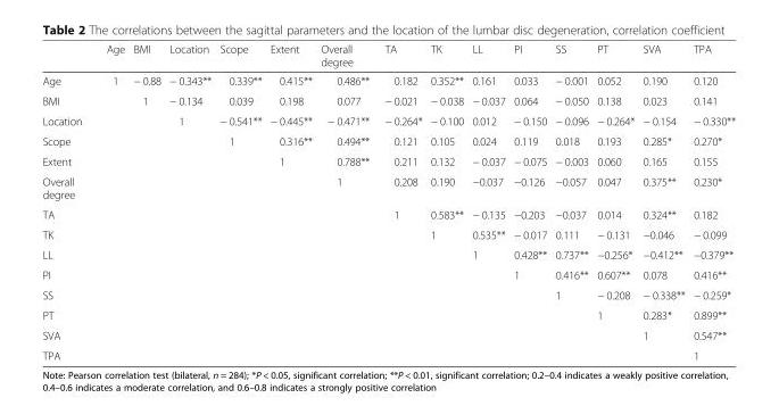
<table><thead><tr><td></td><td>Age</td><td>BMI</td><td>Location</td><td>Scope</td><td>Extent</td><td>Overall degree</td><td>TA</td><td>TK</td><td>LL</td><td>PI</td><td>SS</td><td>PT</td><td>SVA</td><td>TPA</td></tr></thead><tbody><tr><td>Age</td><td>1</td><td>− 0.88</td><td>− 0.343**</td><td>0.339**</td><td>0.415**</td><td>0.486**</td><td>0.182</td><td>0.352**</td><td>0.161</td><td>0.033</td><td>− 0.001</td><td>0.052</td><td>0.190</td><td>0.120</td></tr><tr><td>BMI</td><td></td><td>1</td><td>− 0.134</td><td>0.039</td><td>0.198</td><td>0.077</td><td>− 0.021</td><td>− 0.038</td><td>− 0.037</td><td>0.064</td><td>− 0.050</td><td>0.138</td><td>0.023</td><td>0.141</td></tr><tr><td>Location</td><td></td><td></td><td>1</td><td>− 0.541**</td><td>− 0.445**</td><td>− 0.471**</td><td>− 0.264*</td><td>− 0.100</td><td>0.012</td><td>− 0.150</td><td>− 0.096</td><td>− 0.264*</td><td>− 0.154</td><td>− 0.330**</td></tr><tr><td>Scope</td><td></td><td></td><td></td><td>1</td><td>0.316**</td><td>0.494**</td><td>0.121</td><td>0.105</td><td>0.024</td><td>0.119</td><td>0.018</td><td>0.193</td><td>0.285*</td><td>0.270*</td></tr><tr><td>Extent</td><td></td><td></td><td></td><td></td><td>1</td><td>0.788**</td><td>0.211</td><td>0.132</td><td>− 0.037</td><td>− 0.075</td><td>− 0.003</td><td>0.060</td><td>0.165</td><td>0.155</td></tr><tr><td>Overall degree</td><td></td><td></td><td></td><td></td><td></td><td>1</td><td>0.208</td><td>0.190</td><td>−0.037</td><td>−0.126</td><td>−0.057</td><td>0.047</td><td>0.375**</td><td>0.230*</td></tr><tr><td>TA</td><td></td><td></td><td></td><td></td><td></td><td></td><td>1</td><td>0.583**</td><td>− 0.135</td><td>−0.203</td><td>−0.037</td><td>0.014</td><td>0.324**</td><td>0.182</td></tr><tr><td>TK</td><td></td><td></td><td></td><td></td><td></td><td></td><td></td><td>1</td><td>0.535**</td><td>− 0.017</td><td>0.111</td><td>− 0.131</td><td>−0.046</td><td>− 0.099</td></tr><tr><td>LL</td><td></td><td></td><td></td><td></td><td></td><td></td><td></td><td></td><td>1</td><td>0.428**</td><td>0.737**</td><td>−0.256*</td><td>−0.412**</td><td>−0.379**</td></tr><tr><td>PI</td><td></td><td></td><td></td><td></td><td></td><td></td><td></td><td></td><td></td><td>1</td><td>0.416**</td><td>0.607**</td><td>0.078</td><td>0.416**</td></tr><tr><td>SS</td><td></td><td></td><td></td><td></td><td></td><td></td><td></td><td></td><td></td><td></td><td>1</td><td>− 0.208</td><td>− 0.338**</td><td>− 0.259*</td></tr><tr><td>PT</td><td></td><td></td><td></td><td></td><td></td><td></td><td></td><td></td><td></td><td></td><td></td><td>1</td><td>0.283*</td><td>0.899**</td></tr><tr><td>SVA</td><td></td><td></td><td></td><td></td><td></td><td></td><td></td><td></td><td></td><td></td><td></td><td></td><td>1</td><td>0.547**</td></tr><tr><td>TPA</td><td></td><td></td><td></td><td></td><td></td><td></td><td></td><td></td><td></td><td></td><td></td><td></td><td></td><td>1</td></tr></tbody></table>